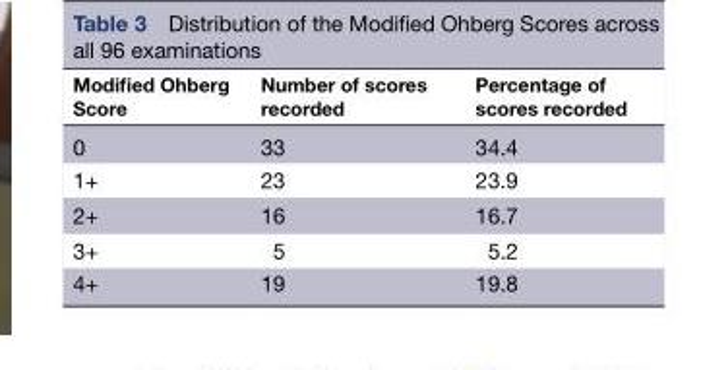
<table><thead><tr><td>Modified Ohberg Score</td><td>Number of scores recorded</td><td>Percentage of scores recorded</td></tr></thead><tbody><tr><td>0</td><td>33</td><td>34.4</td></tr><tr><td>1+</td><td>23</td><td>23.9</td></tr><tr><td>2+</td><td>16</td><td>16.7</td></tr><tr><td>3+</td><td>5</td><td>5.2</td></tr><tr><td>4+</td><td>19</td><td>19.8</td></tr></tbody></table>